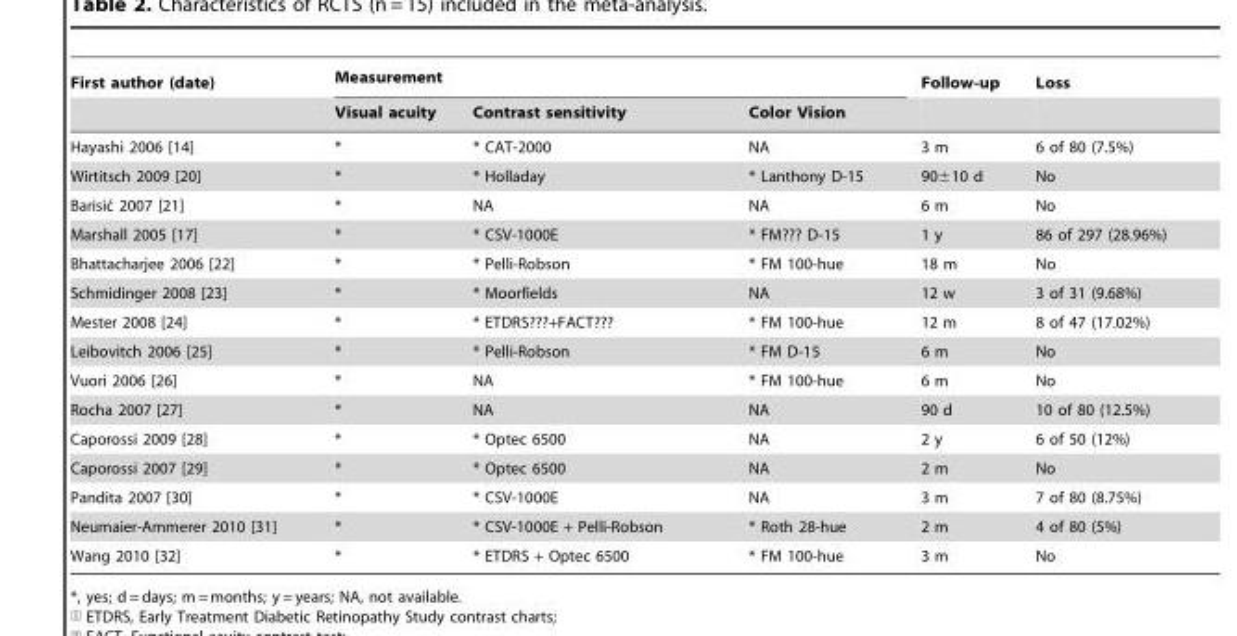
<table><thead><tr><td rowspan="2">First author (date)</td><td colspan="3">Measurement</td><td rowspan="2">Follow-up</td><td rowspan="2">Loss</td></tr><tr><td>Visual acuity</td><td>Contrast sensitivity</td><td>Color Vision</td></tr></thead><tbody><tr><td>Hayashi 2006 [14]</td><td>*</td><td>* CAT-2000</td><td>NA</td><td>3 m</td><td>6 of 80 (7.5%)</td></tr><tr><td>Wirtitsch 2009 [20]</td><td>*</td><td>* Holladay</td><td>* Lanthony D-15</td><td>90±10 d</td><td>No</td></tr><tr><td>Barisic´ 2007 [21]</td><td>*</td><td>NA</td><td>NA</td><td>6 m</td><td>No</td></tr><tr><td>Marshall 2005 [17]</td><td>*</td><td>* CSV-1000E</td><td>* FM??? D-15</td><td>1 y</td><td>86 of 297 (28.96%)</td></tr><tr><td>Bhattacharjee 2006 [22]</td><td>*</td><td>* Pelli-Robson</td><td>* FM 100-hue</td><td>18 m</td><td>No</td></tr><tr><td>Schmidinger 2008 [23]</td><td>*</td><td>* Moorfields</td><td>NA</td><td>12 w</td><td>3 of 31 (9.68%)</td></tr><tr><td>Mester 2008 [24]</td><td>*</td><td>* ETDRS???+FACT???</td><td>* FM 100-hue</td><td>12 m</td><td>8 of 47 (17.02%)</td></tr><tr><td>Leibovitch 2006 [25]</td><td>*</td><td>* Pelli-Robson</td><td>* FM D-15</td><td>6 m</td><td>No</td></tr><tr><td>Vuori 2006 [26]</td><td>*</td><td>NA</td><td>* FM 100-hue</td><td>6 m</td><td>No</td></tr><tr><td>Rocha 2007 [27]</td><td>*</td><td>NA</td><td>NA</td><td>90 d</td><td>10 of 80 (12.5%)</td></tr><tr><td>Caporossi 2009 [28]</td><td>*</td><td>* Optec 6500</td><td>NA</td><td>2 y</td><td>6 of 50 (12%)</td></tr><tr><td>Caporossi 2007 [29]</td><td>*</td><td>* Optec 6500</td><td>NA</td><td>2 m</td><td>No</td></tr><tr><td>Pandita 2007 [30]</td><td>*</td><td>* CSV-1000E</td><td>NA</td><td>3 m</td><td>7 of 80 (8.75%)</td></tr><tr><td>Neumaier-Ammerer 2010 [31]</td><td>*</td><td>* CSV-1000E + Pelli-Robson</td><td>* Roth 28-hue</td><td>2 m</td><td>4 of 80 (5%)</td></tr><tr><td>Wang 2010 [32]</td><td>*</td><td>* ETDRS + Optec 6500</td><td>* FM 100-hue</td><td>3 m</td><td>No</td></tr></tbody></table>